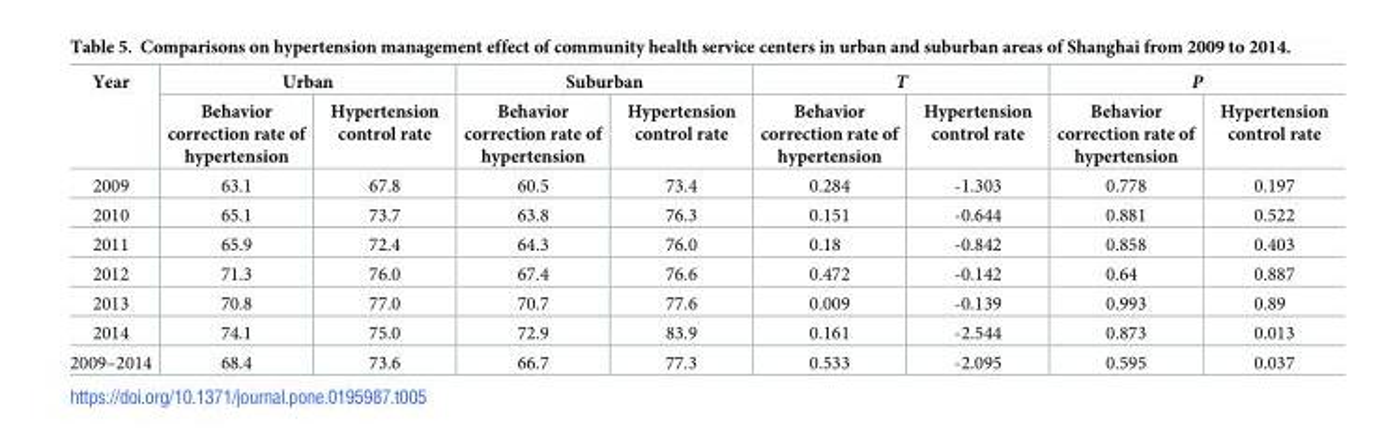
<table><thead><tr><td rowspan="2">Year</td><td colspan="2">Urban</td><td colspan="2">Suburban</td><td colspan="2">T</td><td colspan="2">P</td></tr><tr><td>Behavior correction rate of hypertension</td><td>Hypertension control rate</td><td>Behavior correction rate of hypertension</td><td>Hypertension control rate</td><td>Behavior correction rate of hypertension</td><td>Hypertension control rate</td><td>Behavior correction rate of hypertension</td><td>Hypertension control rate</td></tr></thead><tbody><tr><td>2009</td><td>63.1</td><td>67.8</td><td>60.5</td><td>73.4</td><td>0.284</td><td>-1.303</td><td>0.778</td><td>0.197</td></tr><tr><td>2010</td><td>65.1</td><td>73.7</td><td>63.8</td><td>76.3</td><td>0.151</td><td>-0.644</td><td>0.881</td><td>0.522</td></tr><tr><td>2011</td><td>65.9</td><td>72.4</td><td>64.3</td><td>76.0</td><td>0.18</td><td>-0.842</td><td>0.858</td><td>0.403</td></tr><tr><td>2012</td><td>71.3</td><td>76.0</td><td>67.4</td><td>76.6</td><td>0.472</td><td>-0.142</td><td>0.64</td><td>0.887</td></tr><tr><td>2013</td><td>70.8</td><td>77.0</td><td>70.7</td><td>77.6</td><td>0.009</td><td>-0.139</td><td>0.993</td><td>0.89</td></tr><tr><td>2014</td><td>74.1</td><td>75.0</td><td>72.9</td><td>83.9</td><td>0.161</td><td>-2.544</td><td>0.873</td><td>0.013</td></tr><tr><td>2009–2014</td><td>68.4</td><td>73.6</td><td>66.7</td><td>77.3</td><td>0.533</td><td>-2.095</td><td>0.595</td><td>0.037</td></tr></tbody></table>